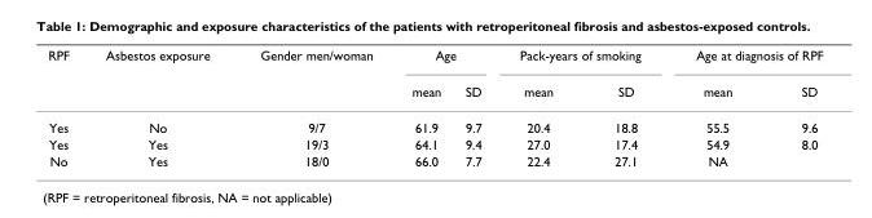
<table><thead><tr><td rowspan="2">RPF</td><td rowspan="2">Asbestos exposure</td><td rowspan="2">Gender men/woman</td><td colspan="2">Age</td><td colspan="2">Pack-years of smoking</td><td colspan="2">Age at diagnosis of RPF</td></tr><tr><td>mean</td><td>SD</td><td>mean</td><td>SD</td><td>mean</td><td>SD</td></tr></thead><tbody><tr><td>Yes</td><td>No</td><td>9/7</td><td>61.9</td><td>9.7</td><td>20.4</td><td>18.8</td><td>55.5</td><td>9.6</td></tr><tr><td>Yes</td><td>Yes</td><td>19/3</td><td>64.1</td><td>9.4</td><td>27.0</td><td>17.4</td><td>54.9</td><td>8.0</td></tr><tr><td>No</td><td>Yes</td><td>18/0</td><td>66.0</td><td>7.7</td><td>22.4</td><td>27.1</td><td>NA</td><td></td></tr></tbody></table>